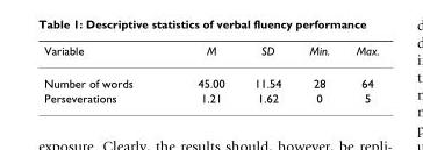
<table><thead><tr><td>Variable</td><td>M</td><td>SD</td><td>Min.</td><td>Max.</td></tr></thead><tbody><tr><td>Number of words</td><td>45.00</td><td>11.54</td><td>28</td><td>64</td></tr><tr><td>Perseverations</td><td>1.21</td><td>1.62</td><td>0</td><td>5</td></tr></tbody></table>